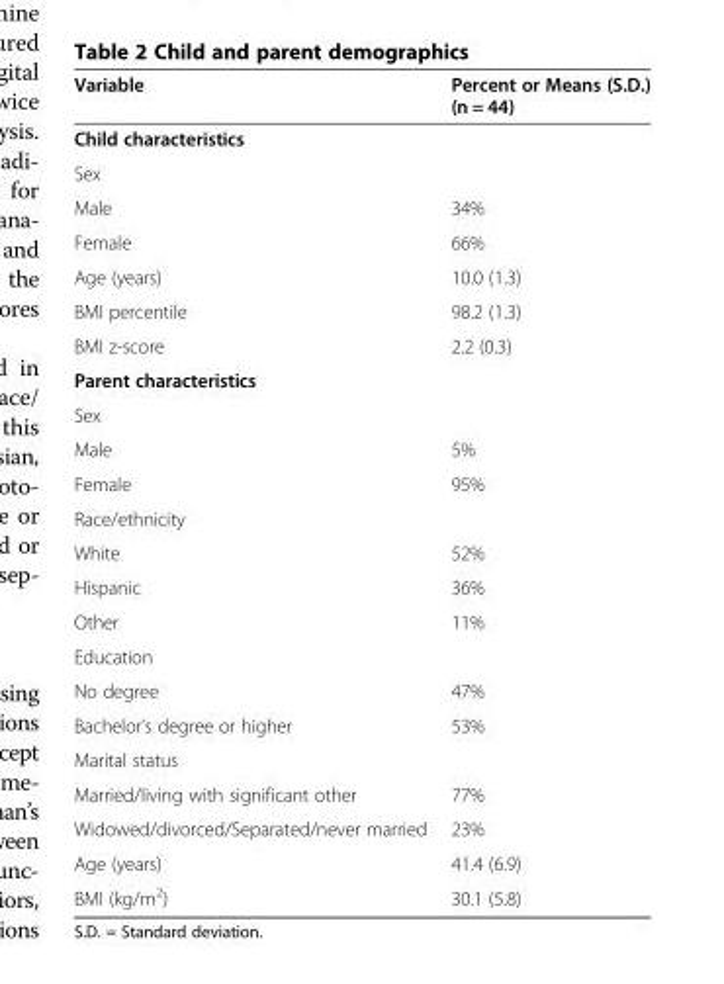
<table><thead><tr><td>Variable</td><td>Percent or Means (S.D.) (n = 44)</td></tr></thead><tbody><tr><td colspan="2">Child characteristics</td></tr><tr><td colspan="2">Sex</td></tr><tr><td>Male</td><td>34%</td></tr><tr><td>Female</td><td>66%</td></tr><tr><td>Age (years)</td><td>10.0 (1.3)</td></tr><tr><td>BMI percentile</td><td>98.2 (1.3)</td></tr><tr><td>BMI z-score</td><td>2.2 (0.3)</td></tr><tr><td colspan="2">Parent characteristics</td></tr><tr><td colspan="2">Sex</td></tr><tr><td>Male</td><td>5%</td></tr><tr><td>Female</td><td>95%</td></tr><tr><td colspan="2">Race/ethnicity</td></tr><tr><td>White</td><td>52%</td></tr><tr><td>Hispanic</td><td>36%</td></tr><tr><td>Other</td><td>11%</td></tr><tr><td colspan="2">Education</td></tr><tr><td>No degree</td><td>47%</td></tr><tr><td>Bachelor’s degree or higher</td><td>53%</td></tr><tr><td colspan="2">Marital status</td></tr><tr><td>Married/living with significant other</td><td>77%</td></tr><tr><td>Widowed/divorced/Separated/never married</td><td>23%</td></tr><tr><td>Age (years)</td><td>41.4 (6.9)</td></tr><tr><td>BMI (kg/m<sup>2</sup>)</td><td>30.1 (5.8)</td></tr></tbody></table>